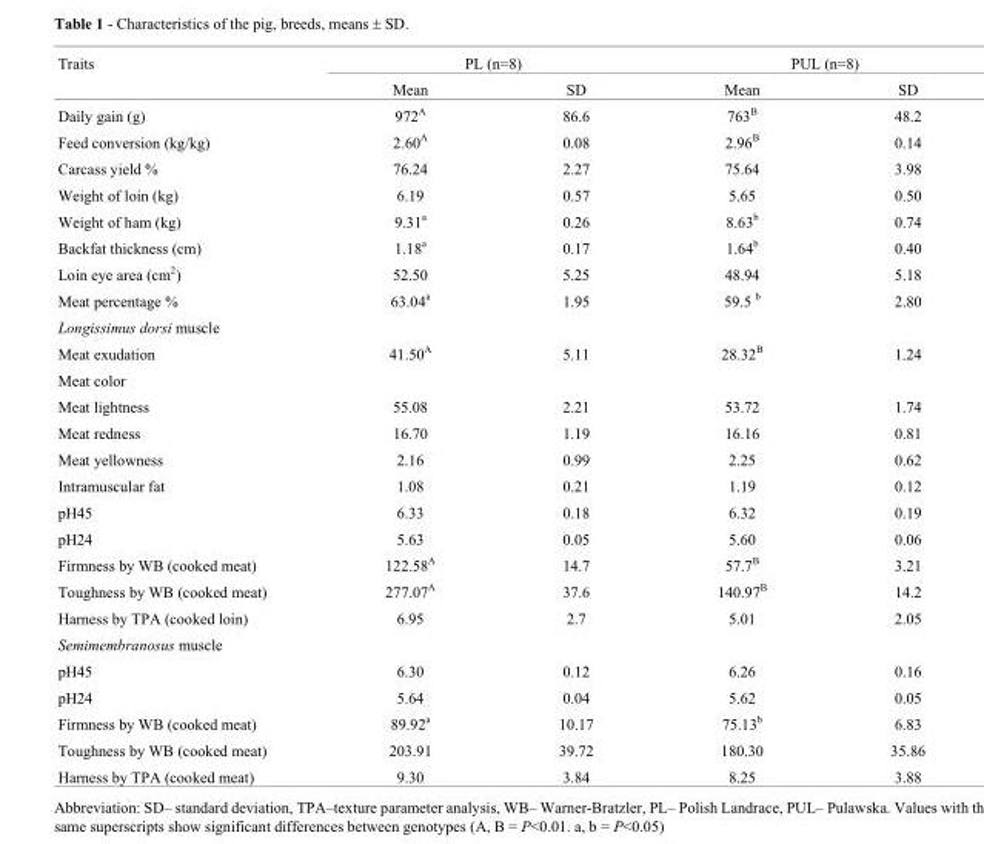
<table><thead><tr><td rowspan="2">Traits</td><td colspan="2">PL (n=8)</td><td colspan="2">PUL (n=8)</td></tr><tr><td>Mean</td><td>SD</td><td>Mean</td><td>SD</td></tr></thead><tbody><tr><td>Daily gain (g)</td><td>972<sup>A</sup></td><td>86.6</td><td>763<sup>B</sup></td><td>48.2</td></tr><tr><td>Feed conversion (kg/kg)</td><td>2.60<sup>A</sup></td><td>0.08</td><td>2.96<sup>B</sup></td><td>0.14</td></tr><tr><td>Carcass yield %</td><td>76.24</td><td>2.27</td><td>75.64</td><td>3.98</td></tr><tr><td>Weight of loin (kg)</td><td>6.19</td><td>0.57</td><td>5.65</td><td>0.50</td></tr><tr><td>Weight of ham (kg)</td><td>9.31<sup>a</sup></td><td>0.26</td><td>8.63<sup>b</sup></td><td>0.74</td></tr><tr><td>Backfat thickness (cm)</td><td>1.18<sup>a</sup></td><td>0.17</td><td>1.64<sup>b</sup></td><td>0.40</td></tr><tr><td>Loin eye area (cm<sup>2</sup>)</td><td>52.50</td><td>5.25</td><td>48.94</td><td>5.18</td></tr><tr><td>Meat percentage %</td><td>63.04<sup>a</sup></td><td>1.95</td><td>59.5 <sup>b</sup></td><td>2.80</td></tr><tr><td colspan="5">Longissimus dorsi muscle</td></tr><tr><td>Meat exudation</td><td>41.50<sup>A</sup></td><td>5.11</td><td>28.32<sup>B</sup></td><td>1.24</td></tr><tr><td colspan="5">Meat color</td></tr><tr><td>Meat lightness</td><td>55.08</td><td>2.21</td><td>53.72</td><td>1.74</td></tr><tr><td>Meat redness</td><td>16.70</td><td>1.19</td><td>16.16</td><td>0.81</td></tr><tr><td>Meat yellowness</td><td>2.16</td><td>0.99</td><td>2.25</td><td>0.62</td></tr><tr><td>Intramuscular fat</td><td>1.08</td><td>0.21</td><td>1.19</td><td>0.12</td></tr><tr><td>pH45</td><td>6.33</td><td>0.18</td><td>6.32</td><td>0.19</td></tr><tr><td>pH24</td><td>5.63</td><td>0.05</td><td>5.60</td><td>0.06</td></tr><tr><td>Firmness by WB (cooked meat)</td><td>122.58<sup>A</sup></td><td>14.7</td><td>57.7<sup>B</sup></td><td>3.21</td></tr><tr><td>Toughness by WB (cooked meat)</td><td>277.07<sup>A</sup></td><td>37.6</td><td>140.97<sup>B</sup></td><td>14.2</td></tr><tr><td>Harness by TPA (cooked loin)</td><td>6.95</td><td>2.7</td><td>5.01</td><td>2.05</td></tr><tr><td colspan="5">Semimembranosus muscle</td></tr><tr><td>pH45</td><td>6.30</td><td>0.12</td><td>6.26</td><td>0.16</td></tr><tr><td>pH24</td><td>5.64</td><td>0.04</td><td>5.62</td><td>0.05</td></tr><tr><td>Firmness by WB (cooked meat)</td><td>89.92<sup>a</sup></td><td>10.17</td><td>75.13<sup>b</sup></td><td>6.83</td></tr><tr><td>Toughness by WB (cooked meat)</td><td>203.91</td><td>39.72</td><td>180.30</td><td>35.86</td></tr><tr><td>Harness by TPA (cooked meat)</td><td>9.30</td><td>3.84</td><td>8.25</td><td>3.88</td></tr></tbody></table>